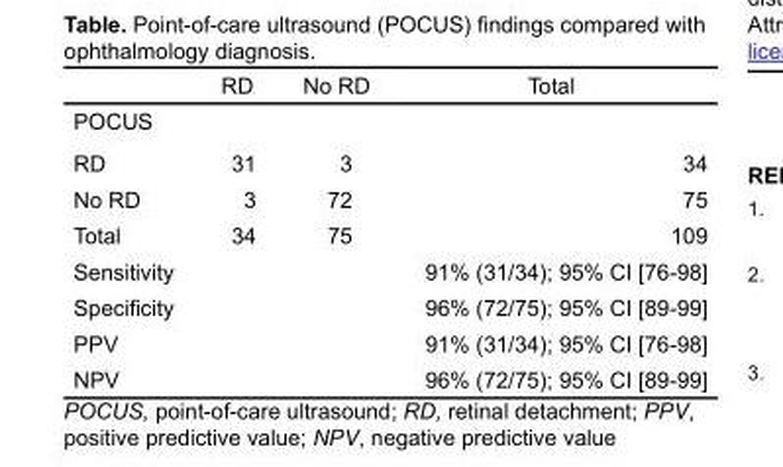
<table><thead><tr><td></td><td>RD</td><td>No RD</td><td>Total</td></tr></thead><tbody><tr><td colspan="4">POCUS</td></tr><tr><td>RD</td><td>31</td><td>3</td><td>34</td></tr><tr><td>No RD</td><td>3</td><td>72</td><td>75</td></tr><tr><td>Total</td><td>34</td><td>75</td><td>109</td></tr><tr><td>Sensitivity</td><td></td><td></td><td>91% (31/34); 95% CI [76-98]</td></tr><tr><td>Specificity</td><td></td><td></td><td>96% (72/75); 95% CI [89-99]</td></tr><tr><td>PPV</td><td></td><td></td><td>91% (31/34); 95% CI [76-98]</td></tr><tr><td>NPV</td><td></td><td></td><td>96% (72/75); 95% CI [89-99]</td></tr></tbody></table>